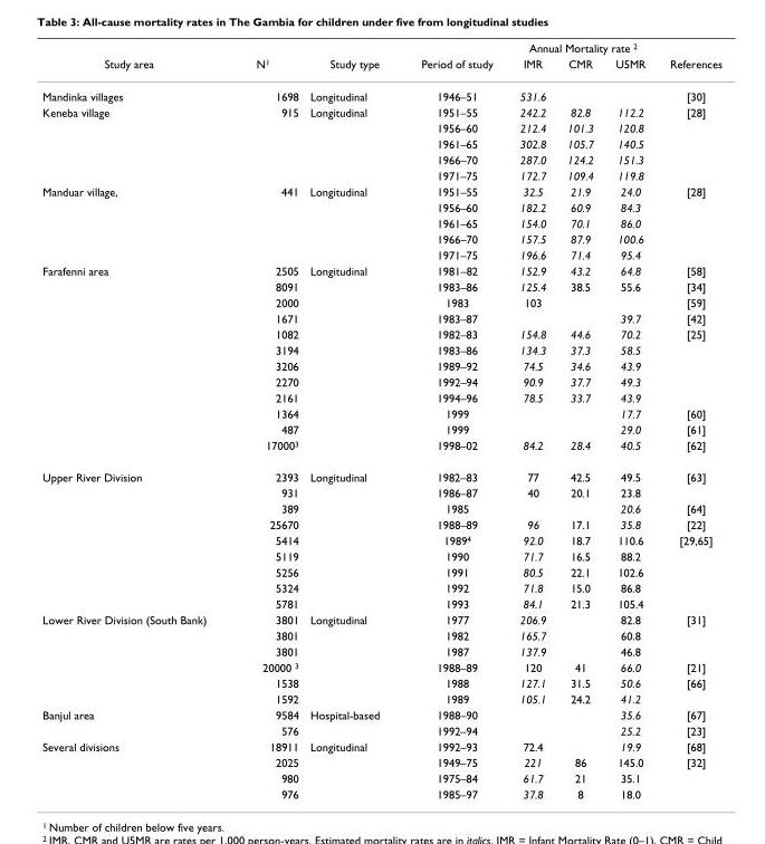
<table><thead><tr><td rowspan="2">Study area</td><td rowspan="2">N<sup>1</sup></td><td rowspan="2">Study type</td><td rowspan="2">Period of study</td><td colspan="3">Annual Mortality rate <sup>2</sup></td><td rowspan="2">References</td></tr><tr><td>IMR</td><td>CMR</td><td>U5MR</td></tr></thead><tbody><tr><td>Mandinka villages</td><td>1698</td><td>Longitudinal</td><td>1946–51</td><td>531.6</td><td></td><td></td><td>[30]</td></tr><tr><td rowspan="5">Keneba village</td><td>915</td><td>Longitudinal</td><td>1951–55</td><td>242.2</td><td>82.8</td><td>112.2</td><td>[28]</td></tr><tr><td></td><td></td><td>1956–60</td><td>212.4</td><td>101.3</td><td>120.8</td><td></td></tr><tr><td></td><td></td><td>1961–65</td><td>302.8</td><td>105.7</td><td>140.5</td><td></td></tr><tr><td></td><td></td><td>1966–70</td><td>287.0</td><td>124.2</td><td>151.3</td><td></td></tr><tr><td></td><td></td><td>1971–75</td><td>172.7</td><td>109.4</td><td>119.8</td><td></td></tr><tr><td rowspan="5">Manduar village,</td><td>441</td><td>Longitudinal</td><td>1951–55</td><td>32.5</td><td>21.9</td><td>24.0</td><td>[28]</td></tr><tr><td></td><td></td><td>1956–60</td><td>182.2</td><td>60.9</td><td>84.3</td><td></td></tr><tr><td></td><td></td><td>1961–65</td><td>154.0</td><td>70.1</td><td>86.0</td><td></td></tr><tr><td></td><td></td><td>1966–70</td><td>157.5</td><td>87.9</td><td>100.6</td><td></td></tr><tr><td></td><td></td><td>1971–75</td><td>196.6</td><td>71.4</td><td>95.4</td><td></td></tr><tr><td rowspan="12">Farafenni area</td><td>2505</td><td>Longitudinal</td><td>1981–82</td><td>152.9</td><td>43.2</td><td>64.8</td><td>[58]</td></tr><tr><td>8091</td><td></td><td>1983–86</td><td>125.4</td><td>38.5</td><td>55.6</td><td>[34]</td></tr><tr><td>2000</td><td></td><td>1983</td><td>103</td><td></td><td></td><td>[59]</td></tr><tr><td>1671</td><td></td><td>1983–87</td><td></td><td></td><td>39.7</td><td>[42]</td></tr><tr><td>1082</td><td></td><td>1982–83</td><td>154.8</td><td>44.6</td><td>70.2</td><td>[25]</td></tr><tr><td>3194</td><td></td><td>1983–86</td><td>134.3</td><td>37.3</td><td>58.5</td><td></td></tr><tr><td>3206</td><td></td><td>1989–92</td><td>74.5</td><td>34.6</td><td>43.9</td><td></td></tr><tr><td>2270</td><td></td><td>1992–94</td><td>90.9</td><td>37.7</td><td>49.3</td><td></td></tr><tr><td>2161</td><td></td><td>1994–96</td><td>78.5</td><td>33.7</td><td>43.9</td><td></td></tr><tr><td>1364</td><td></td><td>1999</td><td></td><td></td><td>17.7</td><td>[60]</td></tr><tr><td>487</td><td></td><td>1999</td><td></td><td></td><td>29.0</td><td>[61]</td></tr><tr><td>17000<sup>3</sup></td><td></td><td>1998–02</td><td>84.2</td><td>28.4</td><td>40.5</td><td>[62]</td></tr><tr><td rowspan="9">Upper River Division</td><td>2393</td><td>Longitudinal</td><td>1982–83</td><td>77</td><td>42.5</td><td>49.5</td><td>[63]</td></tr><tr><td>931</td><td></td><td>1986–87</td><td>40</td><td>20.1</td><td>23.8</td><td></td></tr><tr><td>389</td><td></td><td>1985</td><td></td><td></td><td>20.6</td><td>[64]</td></tr><tr><td>25670</td><td></td><td>1988–89</td><td>96</td><td>17.1</td><td>35.8</td><td>[22]</td></tr><tr><td>5414</td><td></td><td>1989<sup>4</sup></td><td>92.0</td><td>18.7</td><td>110.6</td><td>[29,65]</td></tr><tr><td>5119</td><td></td><td>1990</td><td>71.7</td><td>16.5</td><td>88.2</td><td></td></tr><tr><td>5256</td><td></td><td>1991</td><td>80.5</td><td>22.1</td><td>102.6</td><td></td></tr><tr><td>5324</td><td></td><td>1992</td><td>71.8</td><td>15.0</td><td>86.8</td><td></td></tr><tr><td>5781</td><td></td><td>1993</td><td>84.1</td><td>21.3</td><td>105.4</td><td></td></tr><tr><td rowspan="6">Lower River Division (South Bank)</td><td>3801</td><td>Longitudinal</td><td>1977</td><td>206.9</td><td></td><td>82.8</td><td>[31]</td></tr><tr><td>3801</td><td></td><td>1982</td><td>165.7</td><td></td><td>60.8</td><td></td></tr><tr><td>3801</td><td></td><td>1987</td><td>137.9</td><td></td><td>46.8</td><td></td></tr><tr><td>20000 <sup>3</sup></td><td></td><td>1988–89</td><td>120</td><td>41</td><td>66.0</td><td>[21]</td></tr><tr><td>1538</td><td></td><td>1988</td><td>127.1</td><td>31.5</td><td>50.6</td><td>[66]</td></tr><tr><td>1592</td><td></td><td>1989</td><td>105.1</td><td>24.2</td><td>41.2</td><td></td></tr><tr><td rowspan="2">Banjul area</td><td>9584</td><td>Hospital-based</td><td>1988–90</td><td></td><td></td><td>35.6</td><td>[67]</td></tr><tr><td>576</td><td></td><td>1992–94</td><td></td><td></td><td>25.2</td><td>[23]</td></tr><tr><td rowspan="4">Several divisions</td><td>18911</td><td>Longitudinal</td><td>1992–93</td><td>72.4</td><td></td><td>19.9</td><td>[68]</td></tr><tr><td>2025</td><td></td><td>1949–75</td><td>221</td><td>86</td><td>145.0</td><td>[32]</td></tr><tr><td>980</td><td></td><td>1975–84</td><td>61.7</td><td>21</td><td>35.1</td><td></td></tr><tr><td>976</td><td></td><td>1985–97</td><td>37.8</td><td>8</td><td>18.0</td><td></td></tr></tbody></table>